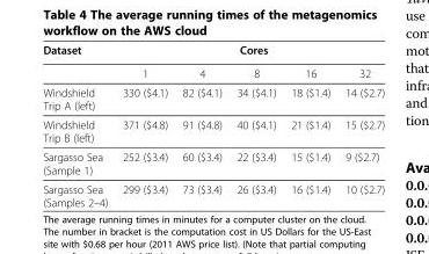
<table><thead><tr><td rowspan="2">Dataset</td><td colspan="5">Cores</td></tr><tr><td>1</td><td>4</td><td>8</td><td>16</td><td>32</td></tr></thead><tbody><tr><td>Windshield Trip A (left)</td><td>330 ($4.1)</td><td>82 ($4.1)</td><td>34 ($4.1)</td><td>18 ($1.4)</td><td>14 ($2.7)</td></tr><tr><td>Windshield Trip B (left)</td><td>371 ($4.8)</td><td>91 ($4.8)</td><td>40 ($4.1)</td><td>21 ($1.4)</td><td>15 ($2.7)</td></tr><tr><td>Sargasso Sea (Sample 1)</td><td>252 ($3.4)</td><td>60 ($3.4)</td><td>22 ($3.4)</td><td>15 ($1.4)</td><td>9 ($2.7)</td></tr><tr><td>Sargasso Sea (Samples 2–4)</td><td>299 ($3.4)</td><td>73 ($3.4)</td><td>26 ($3.4)</td><td>16 ($1.4)</td><td>10 ($2.7)</td></tr></tbody></table>